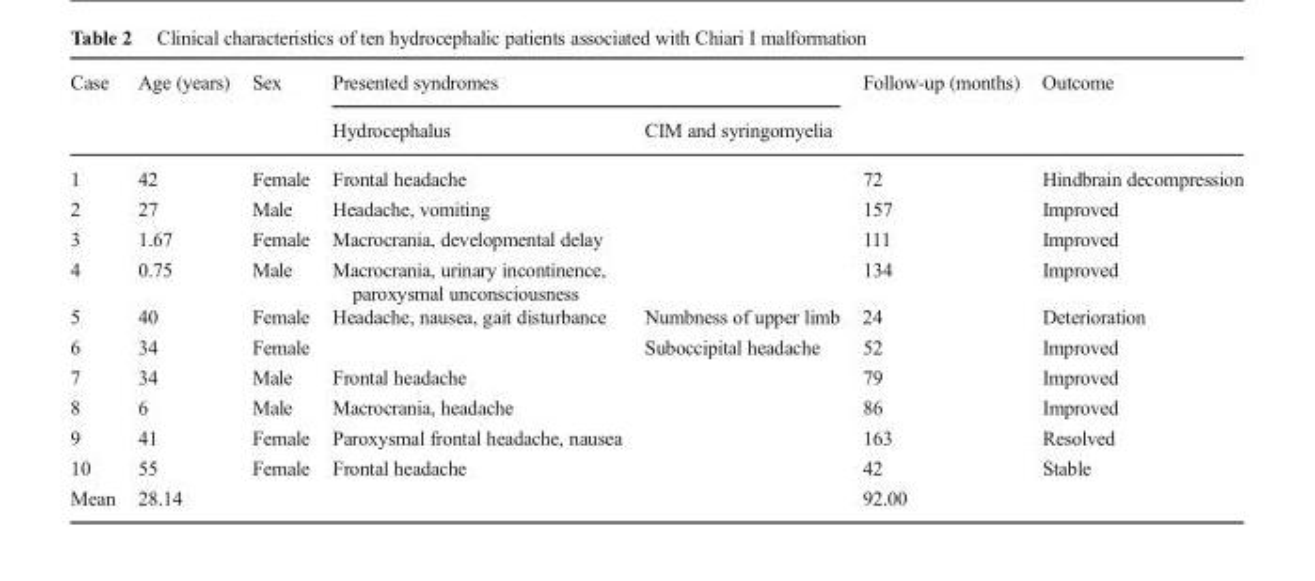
<table><thead><tr><td rowspan="2">Case</td><td rowspan="2">Age (years)</td><td rowspan="2">Sex</td><td colspan="2">Presented syndromes</td><td rowspan="2">Follow-up (months)</td><td rowspan="2">Outcome</td></tr><tr><td>Hydrocephalus</td><td>CIM and syringomyelia</td></tr></thead><tbody><tr><td>1</td><td>42</td><td>Female</td><td>Frontal headache</td><td></td><td>72</td><td>Hindbrain decompression</td></tr><tr><td>2</td><td>27</td><td>Male</td><td>Headache, vomiting</td><td></td><td>157</td><td>Improved</td></tr><tr><td>3</td><td>1.67</td><td>Female</td><td>Macrocrania, developmental delay</td><td></td><td>111</td><td>Improved</td></tr><tr><td>4</td><td>0.75</td><td>Male</td><td>Macrocrania, urinary incontinence, paroxysmal unconsciousness</td><td></td><td>134</td><td>Improved</td></tr><tr><td>5</td><td>40</td><td>Female</td><td>Headache, nausea, gait disturbance</td><td>Numbness of upper limb</td><td>24</td><td>Deterioration</td></tr><tr><td>6</td><td>34</td><td>Female</td><td></td><td>Suboccipital headache</td><td>52</td><td>Improved</td></tr><tr><td>7</td><td>34</td><td>Male</td><td>Frontal headache</td><td></td><td>79</td><td>Improved</td></tr><tr><td>8</td><td>6</td><td>Male</td><td>Macrocrania, headache</td><td></td><td>86</td><td>Improved</td></tr><tr><td>9</td><td>41</td><td>Female</td><td>Paroxysmal frontal headache, nausea</td><td></td><td>163</td><td>Resolved</td></tr><tr><td>10</td><td>55</td><td>Female</td><td>Frontal headache</td><td></td><td>42</td><td>Stable</td></tr><tr><td>Mean</td><td>28.14</td><td></td><td></td><td></td><td>92.00</td><td></td></tr></tbody></table>